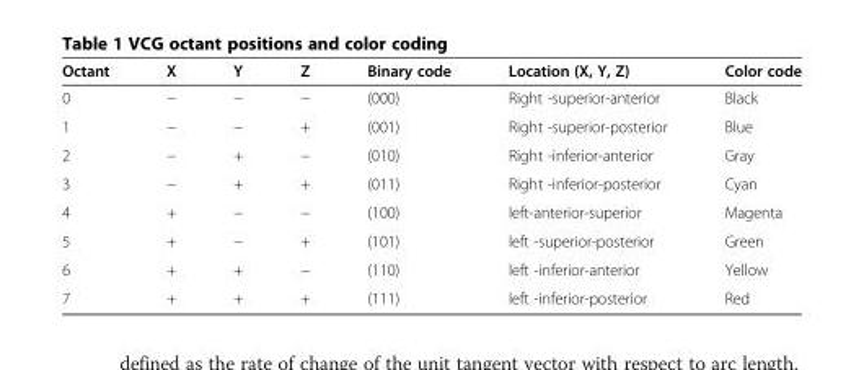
<table><thead><tr><td>Octant</td><td>X</td><td>Y</td><td>Z</td><td>Binary code</td><td>Location (X, Y, Z)</td><td>Color code</td></tr></thead><tbody><tr><td>0</td><td>−</td><td>−</td><td>−</td><td>(000)</td><td>Right -superior-anterior</td><td>Black</td></tr><tr><td>1</td><td>−</td><td>−</td><td>+</td><td>(001)</td><td>Right -superior-posterior</td><td>Blue</td></tr><tr><td>2</td><td>−</td><td>+</td><td>−</td><td>(010)</td><td>Right -inferior-anterior</td><td>Gray</td></tr><tr><td>3</td><td>−</td><td>+</td><td>+</td><td>(011)</td><td>Right -inferior-posterior</td><td>Cyan</td></tr><tr><td>4</td><td>+</td><td>−</td><td>−</td><td>(100)</td><td>left-anterior-superior</td><td>Magenta</td></tr><tr><td>5</td><td>+</td><td>−</td><td>+</td><td>(101)</td><td>left -superior-posterior</td><td>Green</td></tr><tr><td>6</td><td>+</td><td>+</td><td>−</td><td>(110)</td><td>left -inferior-anterior</td><td>Yellow</td></tr><tr><td>7</td><td>+</td><td>+</td><td>+</td><td>(111)</td><td>left -inferior-posterior</td><td>Red</td></tr></tbody></table>